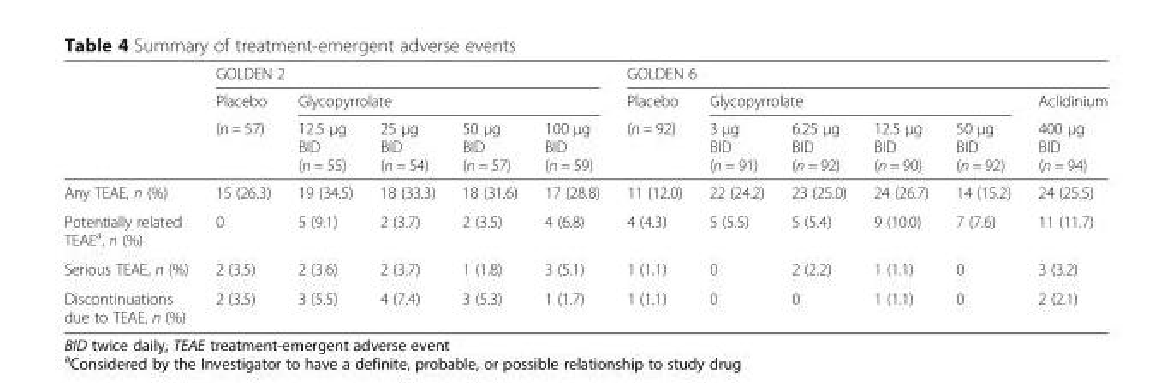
<table><thead><tr><td rowspan="3"></td><td colspan="5">GOLDEN 2</td><td colspan="6">GOLDEN 6</td></tr><tr><td rowspan="2">Placebo (n = 57)</td><td colspan="4">Glycopyrrolate</td><td rowspan="2">Placebo (n = 92)</td><td colspan="4">Glycopyrrolate</td><td rowspan="2">Aclidinium 400 μg BID (n = 94)</td></tr><tr><td>12.5 μg BID (n = 55)</td><td>25 μg BID (n = 54)</td><td>50 μg BID (n = 57)</td><td>100 μg BID (n = 59)</td><td>3 μg BID (n = 91)</td><td>6.25 μg BID (n = 92)</td><td>12.5 μg BID (n = 90)</td><td>50 μg BID (n = 92)</td></tr></thead><tbody><tr><td>Any TEAE, n (%)</td><td>15 (26.3)</td><td>19 (34.5)</td><td>18 (33.3)</td><td>18 (31.6)</td><td>17 (28.8)</td><td>11 (12.0)</td><td>22 (24.2)</td><td>23 (25.0)</td><td>24 (26.7)</td><td>14 (15.2)</td><td>24 (25.5)</td></tr><tr><td>Potentially related TEAE<sup>a</sup>, n (%)</td><td>0</td><td>5 (9.1)</td><td>2 (3.7)</td><td>2 (3.5)</td><td>4 (6.8)</td><td>4 (4.3)</td><td>5 (5.5)</td><td>5 (5.4)</td><td>9 (10.0)</td><td>7 (7.6)</td><td>11 (11.7)</td></tr><tr><td>Serious TEAE, n (%)</td><td>2 (3.5)</td><td>2 (3.6)</td><td>2 (3.7)</td><td>1 (1.8)</td><td>3 (5.1)</td><td>1 (1.1)</td><td>0</td><td>2 (2.2)</td><td>1 (1.1)</td><td>0</td><td>3 (3.2)</td></tr><tr><td>Discontinuations due to TEAE, n (%)</td><td>2 (3.5)</td><td>3 (5.5)</td><td>4 (7.4)</td><td>3 (5.3)</td><td>1 (1.7)</td><td>1 (1.1)</td><td>0</td><td>0</td><td>1 (1.1)</td><td>0</td><td>2 (2.1)</td></tr></tbody></table>